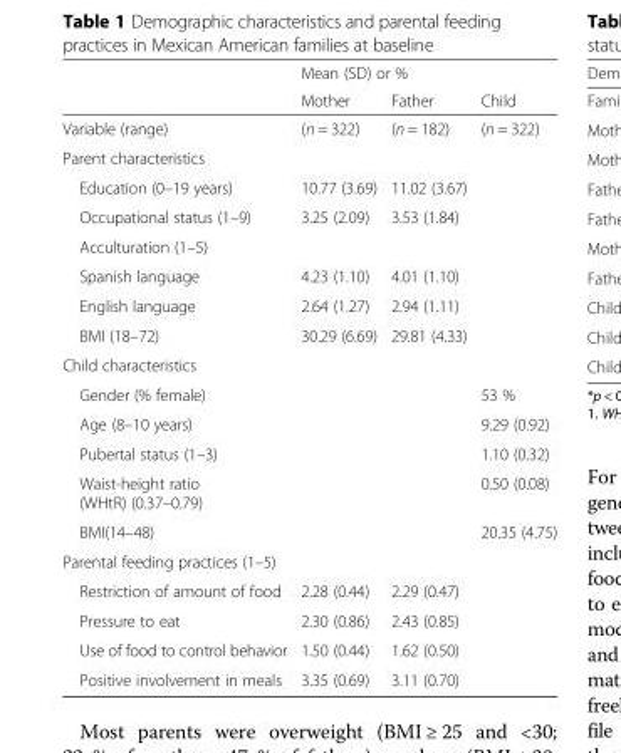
<table><thead><tr><td rowspan="2"></td><td colspan="3">Mean (SD) or %</td></tr><tr><td>Mother</td><td>Father</td><td>Child</td></tr></thead><tbody><tr><td>Variable (range)</td><td>(n = 322)</td><td>(n = 182)</td><td>(n = 322)</td></tr><tr><td colspan="4">Parent characteristics</td></tr><tr><td>Education (0–19 years)</td><td>10.77 (3.69)</td><td>11.02 (3.67)</td><td></td></tr><tr><td>Occupational status (1–9)</td><td>3.25 (2.09)</td><td>3.53 (1.84)</td><td></td></tr><tr><td colspan="4">Acculturation (1–5)</td></tr><tr><td>Spanish language</td><td>4.23 (1.10)</td><td>4.01 (1.10)</td><td></td></tr><tr><td>English language</td><td>2.64 (1.27)</td><td>2.94 (1.11)</td><td></td></tr><tr><td>BMI (18–72)</td><td>30.29 (6.69)</td><td>29.81 (4.33)</td><td></td></tr><tr><td colspan="4">Child characteristics</td></tr><tr><td>Gender (% female)</td><td></td><td></td><td>53 %</td></tr><tr><td>Age (8–10 years)</td><td></td><td></td><td>9.29 (0.92)</td></tr><tr><td>Pubertal status (1–3)</td><td></td><td></td><td>1.10 (0.32)</td></tr><tr><td>Waist-height ratio (WHtR) (0.37–0.79)</td><td></td><td></td><td>0.50 (0.08)</td></tr><tr><td>BMI(14–48)</td><td></td><td></td><td>20.35 (4.75)</td></tr><tr><td colspan="4">Parental feeding practices (1–5)</td></tr><tr><td>Restriction of amount of food</td><td>2.28 (0.44)</td><td>2.29 (0.47)</td><td></td></tr><tr><td>Pressure to eat</td><td>2.30 (0.86)</td><td>2.43 (0.85)</td><td></td></tr><tr><td>Use of food to control behavior</td><td>1.50 (0.44)</td><td>1.62 (0.50)</td><td></td></tr><tr><td>Positive involvement in meals</td><td>3.35 (0.69)</td><td>3.11 (0.70)</td><td></td></tr></tbody></table>